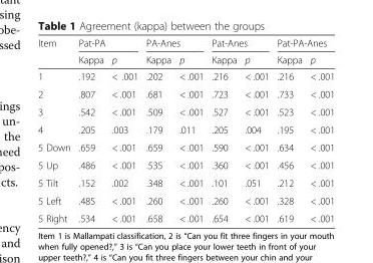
<table><thead><tr><td rowspan="2">Item</td><td colspan="2">Pat-PA</td><td colspan="2">PA-Anes</td><td colspan="2">Pat-Anes</td><td colspan="2">Pat-PA-Anes</td></tr><tr><td>Kappa</td><td>p</td><td>Kappa</td><td>p</td><td>Kappa</td><td>p</td><td>Kappa</td><td>p</td></tr></thead><tbody><tr><td>1</td><td>.192</td><td>&lt; .001</td><td>.202</td><td>&lt; .001</td><td>.216</td><td>&lt; .001</td><td>.216</td><td>&lt; .001</td></tr><tr><td>2</td><td>.807</td><td>&lt; .001</td><td>.681</td><td>&lt; .001</td><td>.723</td><td>&lt; .001</td><td>.733</td><td>&lt; .001</td></tr><tr><td>3</td><td>.542</td><td>&lt; .001</td><td>.509</td><td>&lt; .001</td><td>.527</td><td>&lt; .001</td><td>.523</td><td>&lt; .001</td></tr><tr><td>4</td><td>.205</td><td>.003</td><td>.179</td><td>.011</td><td>.205</td><td>.004</td><td>.195</td><td>&lt; .001</td></tr><tr><td>5 Down</td><td>.659</td><td>&lt; .001</td><td>.659</td><td>&lt; .001</td><td>.590</td><td>&lt; .001</td><td>.634</td><td>&lt; .001</td></tr><tr><td>5 Up</td><td>.486</td><td>&lt; .001</td><td>.535</td><td>&lt; .001</td><td>.360</td><td>&lt; .001</td><td>.456</td><td>&lt; .001</td></tr><tr><td>5 Tilt</td><td>.152</td><td>.002</td><td>.348</td><td>&lt; .001</td><td>.101</td><td>.051</td><td>.212</td><td>&lt; .001</td></tr><tr><td>5 Left</td><td>.485</td><td>&lt; .001</td><td>.260</td><td>&lt; .001</td><td>.260</td><td>&lt; .001</td><td>.328</td><td>&lt; .001</td></tr><tr><td>5 Right</td><td>.534</td><td>&lt; .001</td><td>.658</td><td>&lt; .001</td><td>.654</td><td>&lt; .001</td><td>.619</td><td>&lt; .001</td></tr></tbody></table>